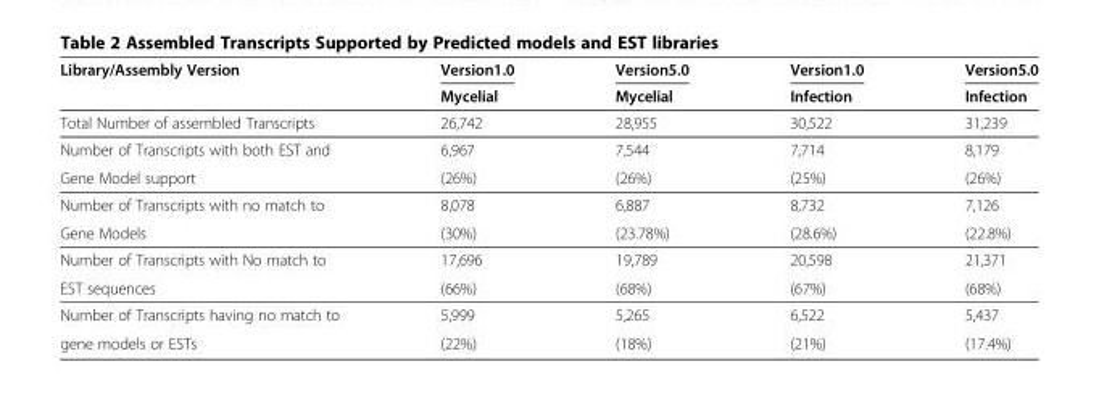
<table><thead><tr><td rowspan="2">Library/Assembly Version</td><td rowspan="2">Version1.0 Mycelial</td><td rowspan="2">Version5.0 Mycelial</td><td rowspan="2">Version1.0 Infection</td><td rowspan="2">Version5.0 Infection</td></tr><tr></tr></thead><tbody><tr><td>Total Number of assembled Transcripts</td><td>26,742</td><td>28,955</td><td>30,522</td><td>31,239</td></tr><tr><td>Number of Transcripts with both EST and</td><td>6,967</td><td>7,544</td><td>7,714</td><td>8,179</td></tr><tr><td>Gene Model support</td><td>(26%)</td><td>(26%)</td><td>(25%)</td><td>(26%)</td></tr><tr><td>Number of Transcripts with no match to</td><td>8,078</td><td>6,887</td><td>8,732</td><td>7,126</td></tr><tr><td>Gene Models</td><td>(30%)</td><td>(23.78%)</td><td>(28.6%)</td><td>(22.8%)</td></tr><tr><td>Number of Transcripts with No match to</td><td>17,696</td><td>19,789</td><td>20,598</td><td>21,371</td></tr><tr><td>EST sequences</td><td>(66%)</td><td>(68%)</td><td>(67%)</td><td>(68%)</td></tr><tr><td>Number of Transcripts having no match to</td><td>5,999</td><td>5,265</td><td>6,522</td><td>5,437</td></tr><tr><td>gene models or ESTs</td><td>(22%)</td><td>(18%)</td><td>(21%)</td><td>(17.4%)</td></tr></tbody></table>